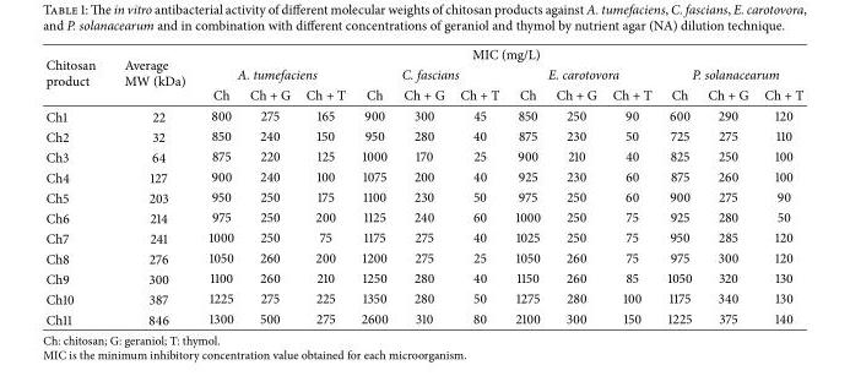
<table><thead><tr><td rowspan="3">Chitosan product</td><td rowspan="3">Average MW (kDa)</td><td colspan="12">MIC (mg/L)</td></tr><tr><td colspan="3">A. tumefaciens</td><td colspan="3">C. fascians</td><td colspan="3">E. carotovora</td><td colspan="3">P. solanacearum</td></tr><tr><td>Ch</td><td>Ch + G</td><td>Ch + T</td><td>Ch</td><td>Ch + G</td><td>Ch + T</td><td>Ch</td><td>Ch + G</td><td>Ch + T</td><td>Ch</td><td>Ch + G</td><td>Ch + T</td></tr></thead><tbody><tr><td>Ch1</td><td>22</td><td>800</td><td>275</td><td>165</td><td>900</td><td>300</td><td>45</td><td>850</td><td>250</td><td>90</td><td>600</td><td>290</td><td>120</td></tr><tr><td>Ch2</td><td>32</td><td>850</td><td>240</td><td>150</td><td>950</td><td>280</td><td>40</td><td>875</td><td>230</td><td>50</td><td>725</td><td>275</td><td>110</td></tr><tr><td>Ch3</td><td>64</td><td>875</td><td>220</td><td>125</td><td>1000</td><td>170</td><td>25</td><td>900</td><td>210</td><td>40</td><td>825</td><td>250</td><td>100</td></tr><tr><td>Ch4</td><td>127</td><td>900</td><td>240</td><td>100</td><td>1075</td><td>200</td><td>40</td><td>925</td><td>230</td><td>60</td><td>875</td><td>260</td><td>100</td></tr><tr><td>Ch5</td><td>203</td><td>950</td><td>250</td><td>175</td><td>1100</td><td>230</td><td>50</td><td>975</td><td>250</td><td>60</td><td>900</td><td>275</td><td>90</td></tr><tr><td>Ch6</td><td>214</td><td>975</td><td>250</td><td>200</td><td>1125</td><td>240</td><td>60</td><td>1000</td><td>250</td><td>75</td><td>925</td><td>280</td><td>50</td></tr><tr><td>Ch7</td><td>241</td><td>1000</td><td>250</td><td>75</td><td>1175</td><td>275</td><td>40</td><td>1025</td><td>250</td><td>75</td><td>950</td><td>285</td><td>120</td></tr><tr><td>Ch8</td><td>276</td><td>1050</td><td>260</td><td>200</td><td>1200</td><td>275</td><td>25</td><td>1050</td><td>260</td><td>75</td><td>975</td><td>300</td><td>120</td></tr><tr><td>Ch9</td><td>300</td><td>1100</td><td>260</td><td>210</td><td>1250</td><td>280</td><td>40</td><td>1150</td><td>260</td><td>85</td><td>1050</td><td>320</td><td>130</td></tr><tr><td>Ch10</td><td>387</td><td>1225</td><td>275</td><td>225</td><td>1350</td><td>280</td><td>50</td><td>1275</td><td>280</td><td>100</td><td>1175</td><td>340</td><td>130</td></tr><tr><td>Ch11</td><td>846</td><td>1300</td><td>500</td><td>275</td><td>2600</td><td>310</td><td>80</td><td>2100</td><td>300</td><td>150</td><td>1225</td><td>375</td><td>140</td></tr></tbody></table>